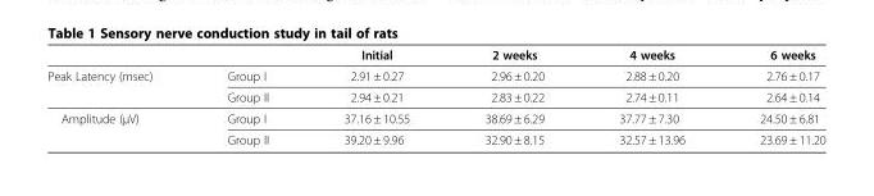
<table><thead><tr><td></td><td></td><td>Initial</td><td>2 weeks</td><td>4 weeks</td><td>6 weeks</td></tr></thead><tbody><tr><td rowspan="2">Peak Latency (msec)</td><td>Group I</td><td>2.91 ± 0.27</td><td>2.96 ± 0.20</td><td>2.88 ± 0.20</td><td>2.76 ± 0.17</td></tr><tr><td>Group II</td><td>2.94 ± 0.21</td><td>2.83 ± 0.22</td><td>2.74 ± 0.11</td><td>2.64 ± 0.14</td></tr><tr><td rowspan="2">Amplitude (μV)</td><td>Group I</td><td>37.16 ± 10.55</td><td>38.69 ± 6.29</td><td>37.77 ± 7.30</td><td>24.50 ± 6.81</td></tr><tr><td>Group II</td><td>39.20 ± 9.96</td><td>32.90 ± 8.15</td><td>32.57 ± 13.96</td><td>23.69 ± 11.20</td></tr></tbody></table>